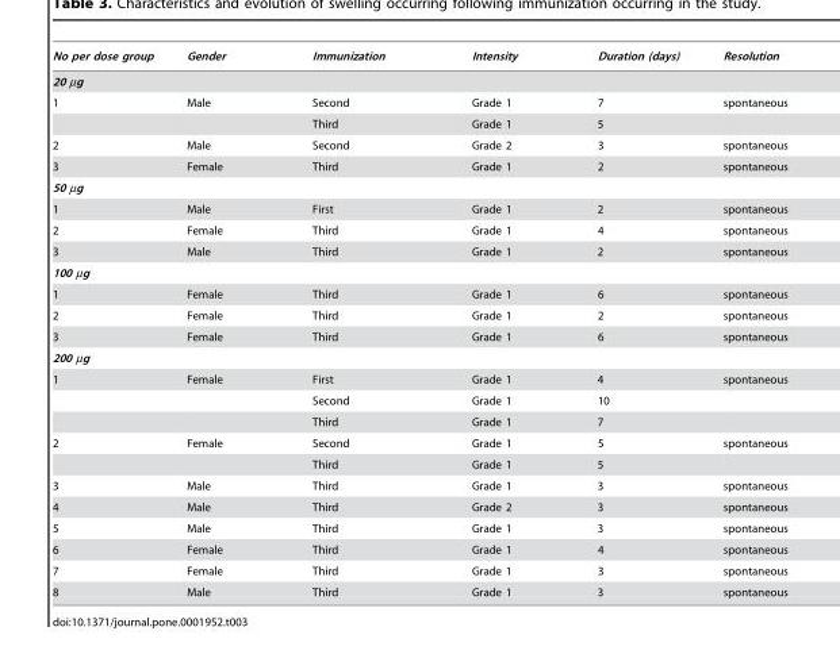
<table><thead><tr><td>No per dose group</td><td>Gender</td><td>Immunization</td><td>Intensity</td><td>Duration (days)</td><td>Resolution</td></tr></thead><tbody><tr><td colspan="6">20 µg</td></tr><tr><td rowspan="2">1</td><td>Male</td><td>Second</td><td>Grade 1</td><td>7</td><td>spontaneous</td></tr><tr><td></td><td>Third</td><td>Grade 1</td><td>5</td><td></td></tr><tr><td>2</td><td>Male</td><td>Second</td><td>Grade 2</td><td>3</td><td>spontaneous</td></tr><tr><td>3</td><td>Female</td><td>Third</td><td>Grade 1</td><td>2</td><td>spontaneous</td></tr><tr><td colspan="6">50 µg</td></tr><tr><td>1</td><td>Male</td><td>First</td><td>Grade 1</td><td>2</td><td>spontaneous</td></tr><tr><td>2</td><td>Female</td><td>Third</td><td>Grade 1</td><td>4</td><td>spontaneous</td></tr><tr><td>3</td><td>Male</td><td>Third</td><td>Grade 1</td><td>2</td><td>spontaneous</td></tr><tr><td colspan="6">100 µg</td></tr><tr><td>1</td><td>Female</td><td>Third</td><td>Grade 1</td><td>6</td><td>spontaneous</td></tr><tr><td>2</td><td>Female</td><td>Third</td><td>Grade 1</td><td>2</td><td>spontaneous</td></tr><tr><td>3</td><td>Female</td><td>Third</td><td>Grade 1</td><td>6</td><td>spontaneous</td></tr><tr><td colspan="6">200 µg</td></tr><tr><td rowspan="3">1</td><td>Female</td><td>First</td><td>Grade 1</td><td>4</td><td>spontaneous</td></tr><tr><td></td><td>Second</td><td>Grade 1</td><td>10</td><td></td></tr><tr><td></td><td>Third</td><td>Grade 1</td><td>7</td><td></td></tr><tr><td rowspan="2">2</td><td>Female</td><td>Second</td><td>Grade 1</td><td>5</td><td>spontaneous</td></tr><tr><td></td><td>Third</td><td>Grade 1</td><td>5</td><td></td></tr><tr><td>3</td><td>Male</td><td>Third</td><td>Grade 1</td><td>3</td><td>spontaneous</td></tr><tr><td>4</td><td>Male</td><td>Third</td><td>Grade 2</td><td>3</td><td>spontaneous</td></tr><tr><td>5</td><td>Male</td><td>Third</td><td>Grade 1</td><td>3</td><td>spontaneous</td></tr><tr><td>6</td><td>Female</td><td>Third</td><td>Grade 1</td><td>4</td><td>spontaneous</td></tr><tr><td>7</td><td>Female</td><td>Third</td><td>Grade 1</td><td>3</td><td>spontaneous</td></tr><tr><td>8</td><td>Male</td><td>Third</td><td>Grade 1</td><td>3</td><td>spontaneous</td></tr></tbody></table>